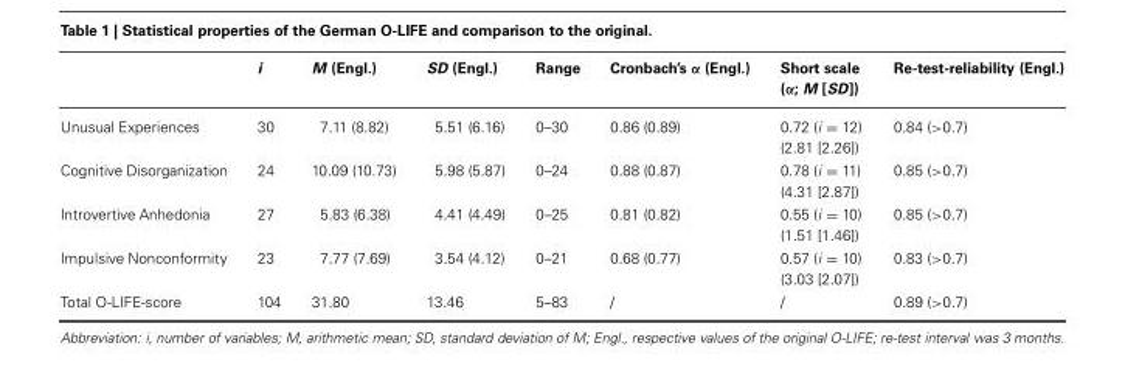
<table><thead><tr><td></td><td>i</td><td>M (Engl.)</td><td>SD (Engl.)</td><td>Range</td><td>Cronbach’s α (Engl.)</td><td>Short scale (α; M [SD])</td><td>Re-test-reliability (Engl.)</td></tr></thead><tbody><tr><td>Unusual Experiences</td><td>30</td><td>7.11 (8.82)</td><td>5.51 (6.16)</td><td>0–30</td><td>0.86 (0.89)</td><td>0.72 (i = 12) (2.81 [2.26])</td><td>0.84 (&gt;0.7)</td></tr><tr><td>Cognitive Disorganization</td><td>24</td><td>10.09 (10.73)</td><td>5.98 (5.87)</td><td>0–24</td><td>0.88 (0.87)</td><td>0.78 (i = 11) (4.31 [2.87])</td><td>0.85 (&gt;0.7)</td></tr><tr><td>Introvertive Anhedonia</td><td>27</td><td>5.83 (6.38)</td><td>4.41 (4.49)</td><td>0–25</td><td>0.81 (0.82)</td><td>0.55 (i = 10) (1.51 [1.46])</td><td>0.85 (&gt;0.7)</td></tr><tr><td>Impulsive Nonconformity</td><td>23</td><td>7.77 (7.69)</td><td>3.54 (4.12)</td><td>0–21</td><td>0.68 (0.77)</td><td>0.57 (i = 10) (3.03 [2.07])</td><td>0.83 (&gt;0.7)</td></tr><tr><td>Total O-LIFE-score</td><td>104</td><td>31.80</td><td>13.46</td><td>5–83</td><td>/</td><td>/</td><td>0.89 (&gt;0.7)</td></tr></tbody></table>